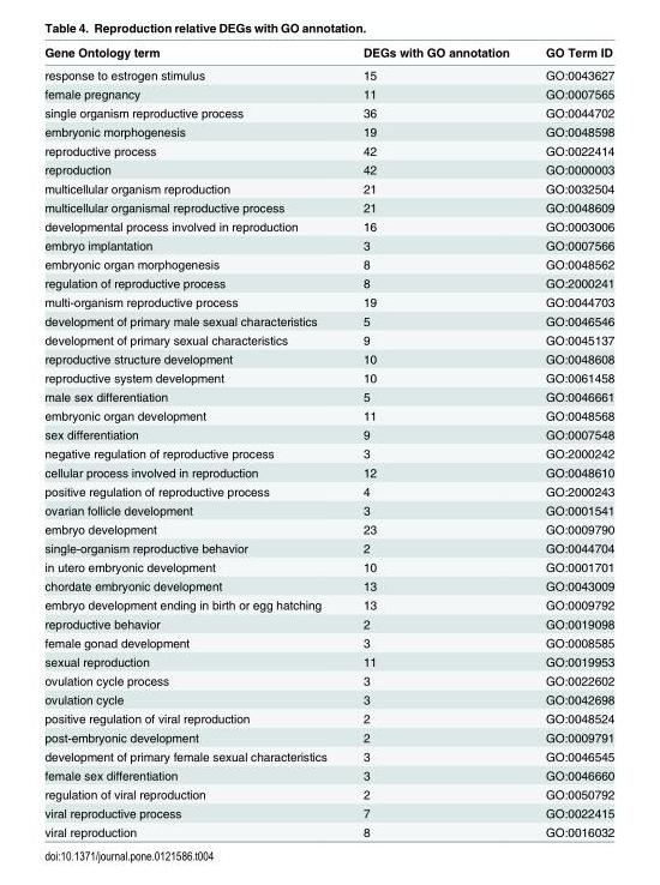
<table><thead><tr><td>Gene Ontology term</td><td>DEGs with GO annotation</td><td>GO Term ID</td></tr></thead><tbody><tr><td>response to estrogen stimulus</td><td>15</td><td>GO:0043627</td></tr><tr><td>female pregnancy</td><td>11</td><td>GO:0007565</td></tr><tr><td>single organism reproductive process</td><td>36</td><td>GO:0044702</td></tr><tr><td>embryonic morphogenesis</td><td>19</td><td>GO:0048598</td></tr><tr><td>reproductive process</td><td>42</td><td>GO:0022414</td></tr><tr><td>reproduction</td><td>42</td><td>GO:0000003</td></tr><tr><td>multicellular organism reproduction</td><td>21</td><td>GO:0032504</td></tr><tr><td>multicellular organismal reproductive process</td><td>21</td><td>GO:0048609</td></tr><tr><td>developmental process involved in reproduction</td><td>16</td><td>GO:0003006</td></tr><tr><td>embryo implantation</td><td>3</td><td>GO:0007566</td></tr><tr><td>embryonic organ morphogenesis</td><td>8</td><td>GO:0048562</td></tr><tr><td>regulation of reproductive process</td><td>8</td><td>GO:2000241</td></tr><tr><td>multi-organism reproductive process</td><td>19</td><td>GO:0044703</td></tr><tr><td>development of primary male sexual characteristics</td><td>5</td><td>GO:0046546</td></tr><tr><td>development of primary sexual characteristics</td><td>9</td><td>GO:0045137</td></tr><tr><td>reproductive structure development</td><td>10</td><td>GO:0048608</td></tr><tr><td>reproductive system development</td><td>10</td><td>GO:0061458</td></tr><tr><td>male sex differentiation</td><td>5</td><td>GO:0046661</td></tr><tr><td>embryonic organ development</td><td>11</td><td>GO:0048568</td></tr><tr><td>sex differentiation</td><td>9</td><td>GO:0007548</td></tr><tr><td>negative regulation of reproductive process</td><td>3</td><td>GO:2000242</td></tr><tr><td>cellular process involved in reproduction</td><td>12</td><td>GO:0048610</td></tr><tr><td>positive regulation of reproductive process</td><td>4</td><td>GO:2000243</td></tr><tr><td>ovarian follicle development</td><td>3</td><td>GO:0001541</td></tr><tr><td>embryo development</td><td>23</td><td>GO:0009790</td></tr><tr><td>single-organism reproductive behavior</td><td>2</td><td>GO:0044704</td></tr><tr><td>in utero embryonic development</td><td>10</td><td>GO:0001701</td></tr><tr><td>chordate embryonic development</td><td>13</td><td>GO:0043009</td></tr><tr><td>embryo development ending in birth or egg hatching</td><td>13</td><td>GO:0009792</td></tr><tr><td>reproductive behavior</td><td>2</td><td>GO:0019098</td></tr><tr><td>female gonad development</td><td>3</td><td>GO:0008585</td></tr><tr><td>sexual reproduction</td><td>11</td><td>GO:0019953</td></tr><tr><td>ovulation cycle process</td><td>3</td><td>GO:0022602</td></tr><tr><td>ovulation cycle</td><td>3</td><td>GO:0042698</td></tr><tr><td>positive regulation of viral reproduction</td><td>2</td><td>GO:0048524</td></tr><tr><td>post-embryonic development</td><td>2</td><td>GO:0009791</td></tr><tr><td>development of primary female sexual characteristics</td><td>3</td><td>GO:0046545</td></tr><tr><td>female sex differentiation</td><td>3</td><td>GO:0046660</td></tr><tr><td>regulation of viral reproduction</td><td>2</td><td>GO:0050792</td></tr><tr><td>viral reproductive process</td><td>7</td><td>GO:0022415</td></tr><tr><td>viral reproduction</td><td>8</td><td>GO:0016032</td></tr></tbody></table>